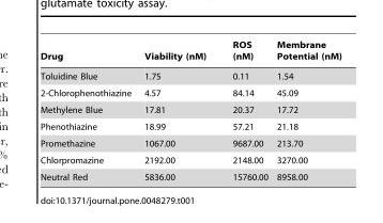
<table><thead><tr><td>Drug</td><td>Viability (nM)</td><td>ROS (nM)</td><td>Membrane Potential (nM)</td></tr></thead><tbody><tr><td>Toluidine Blue</td><td>1.75</td><td>0.11</td><td>1.54</td></tr><tr><td>2-Chlorophenothiazine</td><td>4.57</td><td>84.14</td><td>45.09</td></tr><tr><td>Methylene Blue</td><td>17.81</td><td>20.37</td><td>17.72</td></tr><tr><td>Phenothiazine</td><td>18.99</td><td>57.21</td><td>21.18</td></tr><tr><td>Promethazine</td><td>1067.00</td><td>9687.00</td><td>213.70</td></tr><tr><td>Chlorpromazine</td><td>2192.00</td><td>2148.00</td><td>3270.00</td></tr><tr><td>Neutral Red</td><td>5836.00</td><td>15760.00</td><td>8958.00</td></tr></tbody></table>